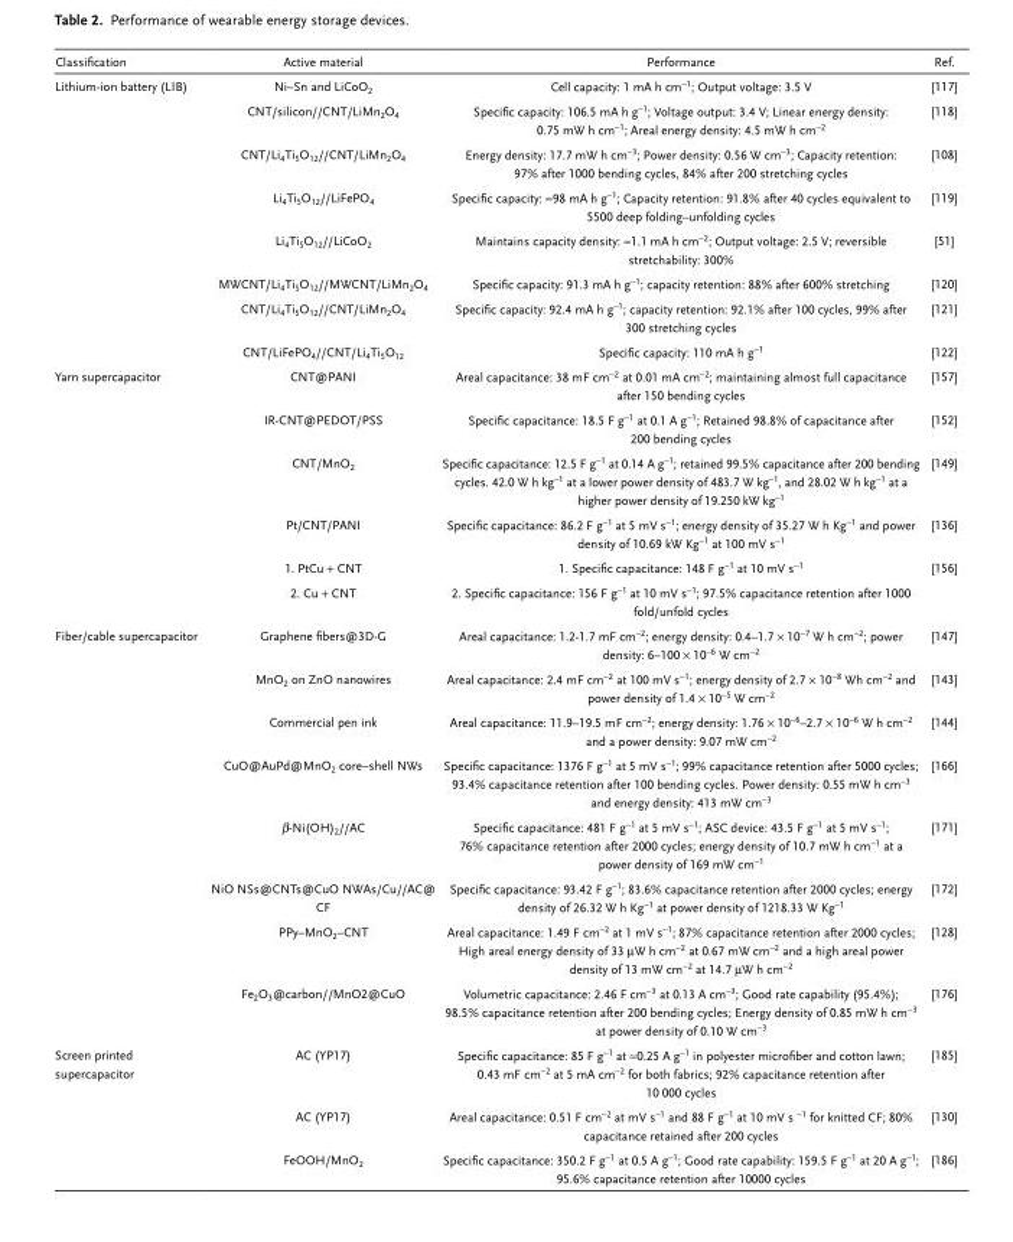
<table><thead><tr><td>Classification</td><td>Active material</td><td>Performance</td><td>Ref.</td></tr></thead><tbody><tr><td rowspan="8">Lithium-ion battery (LIB)</td><td>Ni–Sn and LiCoO<sub>2</sub></td><td>Cell capacity: 1 mA h cm<sup>−1</sup>; Output voltage: 3.5 V</td><td>[117]</td></tr><tr><td>CNT/silicon//CNT/LiMn<sub>2</sub>O<sub>4</sub></td><td>Specific capacity: 106.5 mA h g<sup>−1</sup>; Voltage output: 3.4 V; Linear energy density: 0.75 mW h cm<sup>−1</sup>; Areal energy density: 4.5 mW h cm<sup>−2</sup></td><td>[118]</td></tr><tr><td>CNT/Li<sub>4</sub>Ti<sub>5</sub>O<sub>12</sub>//CNT/LiMn<sub>2</sub>O<sub>4</sub></td><td>Energy density: 17.7 mW h cm<sup>−3</sup>; Power density: 0.56 W cm<sup>−3</sup>; Capacity retention: 97% after 1000 bending cycles, 84% after 200 stretching cycles</td><td>[108]</td></tr><tr><td>Li<sub>4</sub>Ti<sub>5</sub>O<sub>12</sub>//LiFePO<sub>4</sub></td><td>Specific capacity: ≈98 mA h g<sup>−1</sup>; Capacity retention: 91.8% after 40 cycles equivalent to 5500 deep folding–unfolding cycles</td><td>[119]</td></tr><tr><td>Li<sub>4</sub>Ti<sub>5</sub>O<sub>12</sub>//LiCoO<sub>2</sub></td><td>Maintains capacity density: ≈1.1 mA h cm<sup>−2</sup>; Output voltage: 2.5 V; reversible stretchability: 300%</td><td>[51]</td></tr><tr><td>MWCNT/Li<sub>4</sub>Ti<sub>5</sub>O<sub>12</sub>//MWCNT/LiMn<sub>2</sub>O<sub>4</sub></td><td>Specific capacity: 91.3 mA h g<sup>−1</sup>; capacity retention: 88% after 600% stretching</td><td>[120]</td></tr><tr><td>CNT/Li<sub>4</sub>Ti<sub>5</sub>O<sub>12</sub>//CNT/LiMn<sub>2</sub>O<sub>4</sub></td><td>Specific capacity: 92.4 mA h g<sup>−1</sup>; capacity retention: 92.1% after 100 cycles, 99% after 300 stretching cycles</td><td>[121]</td></tr><tr><td>CNT/LiFePO<sub>4</sub>//CNT/Li<sub>4</sub>Ti<sub>5</sub>O<sub>12</sub></td><td>Specific capacity: 110 mA h g<sup>−1</sup></td><td>[122]</td></tr><tr><td rowspan="6">Yarn supercapacitor</td><td>CNT@PANI</td><td>Areal capacitance: 38 mF cm<sup>−2</sup> at 0.01 mA cm<sup>−2</sup>; maintaining almost full capacitance after 150 bending cycles</td><td>[157]</td></tr><tr><td>IR-CNT@PEDOT/PSS</td><td>Specific capacitance: 18.5 F g<sup>−1</sup> at 0.1 A g<sup>−1</sup>; Retained 98.8% of capacitance after 200 bending cycles</td><td>[152]</td></tr><tr><td>CNT/MnO<sub>2</sub></td><td>Specific capacitance: 12.5 F g<sup>−1</sup> at 0.14 A g<sup>−1</sup>; retained 99.5% capacitance after 200 bending cycles. 42.0 W h kg<sup>−1</sup> at a lower power density of 483.7 W kg<sup>−1</sup>, and 28.02 W h kg<sup>−1</sup> at a higher power density of 19.250 kW kg<sup>−1</sup></td><td>[149]</td></tr><tr><td>Pt/CNT/PANI</td><td>Specific capacitance: 86.2 F g<sup>−1</sup> at 5 mV s<sup>−1</sup>; energy density of 35.27 W h Kg<sup>−1</sup> and power density of 10.69 kW Kg<sup>−1</sup> at 100 mV s<sup>−1</sup></td><td>[136]</td></tr><tr><td>1. PtCu + CNT</td><td>1. Specific capacitance: 148 F g<sup>−1</sup> at 10 mV s<sup>−1</sup></td><td>[156]</td></tr><tr><td>2. Cu + CNT</td><td>2. Specific capacitance: 156 F g<sup>−1</sup> at 10 mV s<sup>−1</sup>; 97.5% capacitance retention after 1000 fold/unfold cycles</td><td></td></tr><tr><td rowspan="8">Fiber/cable supercapacitor</td><td>Graphene fibers@3D-G</td><td>Areal capacitance: 1.2-1.7 mF cm<sup>−2</sup>; energy density: 0.4–1.7 × 10<sup>−7</sup> W h cm<sup>−2</sup>; power density: 6–100 × 10<sup>−6</sup> W cm<sup>−2</sup></td><td>[147]</td></tr><tr><td>MnO<sub>2</sub> on ZnO nanowires</td><td>Areal capacitance: 2.4 mF cm<sup>−2</sup> at 100 mV s<sup>−1</sup>; energy density of 2.7 × 10<sup>−8</sup> Wh cm<sup>−2</sup> and power density of 1.4 × 10<sup>−5</sup> W cm<sup>−2</sup></td><td>[143]</td></tr><tr><td>Commercial pen ink</td><td>Areal capacitance: 11.9–19.5 mF cm<sup>−2</sup>; energy density: 1.76 × 10<sup>−6</sup>–2.7 × 10<sup>−6</sup> W h cm<sup>−2</sup> and a power density: 9.07 mW cm<sup>−2</sup></td><td>[144]</td></tr><tr><td>CuO@AuPd@MnO<sub>2</sub> core–shell NWs</td><td>Specific capacitance: 1376 F g<sup>−1</sup> at 5 mV s<sup>−1</sup>; 99% capacitance retention after 5000 cycles; 93.4% capacitance retention after 100 bending cycles. Power density: 0.55 mW h cm<sup>−3</sup> and energy density: 413 mW cm<sup>−3</sup></td><td>[166]</td></tr><tr><td>β-Ni(OH)<sub>2</sub>//AC</td><td>Specific capacitance: 481 F g<sup>−1</sup> at 5 mV s<sup>−1</sup>; ASC device: 43.5 F g<sup>−1</sup> at 5 mV s<sup>−1</sup>; 76% capacitance retention after 2000 cycles; energy density of 10.7 mW h cm<sup>−1</sup> at a power density of 169 mW cm<sup>−1</sup></td><td>[171]</td></tr><tr><td>NiO NSs@CNTs@CuO NWAs/Cu//AC@ CF</td><td>Specific capacitance: 93.42 F g<sup>−1</sup>; 83.6% capacitance retention after 2000 cycles; energy density of 26.32 W h Kg<sup>−1</sup> at power density of 1218.33 W Kg<sup>−1</sup></td><td>[172]</td></tr><tr><td>PPy–MnO<sub>2</sub>–CNT</td><td>Areal capacitance: 1.49 F cm<sup>−2</sup> at 1 mV s<sup>−1</sup>; 87% capacitance retention after 2000 cycles; High areal energy density of 33 µW h cm<sup>−2</sup> at 0.67 mW cm<sup>−2</sup> and a high areal power density of 13 mW cm<sup>−2</sup> at 14.7 µW h cm<sup>−2</sup></td><td>[128]</td></tr><tr><td>Fe<sub>2</sub>O<sub>3</sub>@carbon//MnO2@CuO</td><td>Volumetric capacitance: 2.46 F cm<sup>−3</sup> at 0.13 A cm<sup>−3</sup>; Good rate capability (95.4%); 98.5% capacitance retention after 200 bending cycles; Energy density of 0.85 mW h cm<sup>−3</sup> at power density of 0.10 W cm<sup>−3</sup></td><td>[176]</td></tr><tr><td rowspan="3">Screen printed supercapacitor</td><td>AC (YP17)</td><td>Specific capacitance: 85 F g<sup>−1</sup> at ≈0.25 A g<sup>−1</sup> in polyester microfiber and cotton lawn; 0.43 mF cm<sup>−2</sup> at 5 mA cm<sup>−2</sup> for both fabrics; 92% capacitance retention after 10 000 cycles</td><td>[185]</td></tr><tr><td>AC (YP17)</td><td>Areal capacitance: 0.51 F cm<sup>−2</sup> at mV s<sup>−1</sup> and 88 F g<sup>−1</sup> at 10 mV s <sup>−1</sup> for knitted CF; 80% capacitance retained after 200 cycles</td><td>[130]</td></tr><tr><td>FeOOH/MnO<sub>2</sub></td><td>Specific capacitance: 350.2 F g<sup>−1</sup> at 0.5 A g<sup>−1</sup>; Good rate capability: 159.5 F g<sup>−1</sup> at 20 A g<sup>−1</sup>; 95.6% capacitance retention after 10000 cycles</td><td>[186]</td></tr></tbody></table>